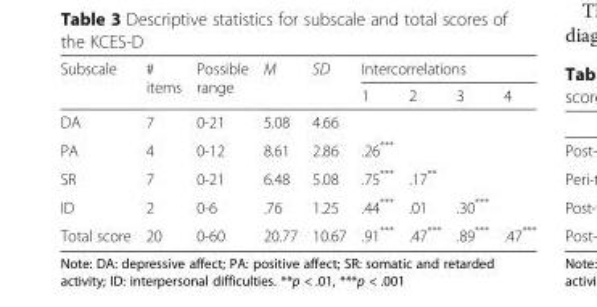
<table><thead><tr><td rowspan="2">Subscale</td><td rowspan="2"># items</td><td rowspan="2">Possible range</td><td rowspan="2">M</td><td rowspan="2">SD</td><td colspan="4">Intercorrelations</td></tr><tr><td>1</td><td>2</td><td>3</td><td>4</td></tr></thead><tbody><tr><td>DA</td><td>7</td><td>0-21</td><td>5.08</td><td>4.66</td><td></td><td></td><td></td><td></td></tr><tr><td>PA</td><td>4</td><td>0-12</td><td>8.61</td><td>2.86</td><td>.26***</td><td></td><td></td><td></td></tr><tr><td>SR</td><td>7</td><td>0-21</td><td>6.48</td><td>5.08</td><td>.75***</td><td>.17**</td><td></td><td></td></tr><tr><td>ID</td><td>2</td><td>0-6</td><td>.76</td><td>1.25</td><td>.44***</td><td>.01</td><td>.30***</td><td></td></tr><tr><td>Total score</td><td>20</td><td>0-60</td><td>20.77</td><td>10.67</td><td>.91***</td><td>.47***</td><td>.89***</td><td>.47***</td></tr></tbody></table>